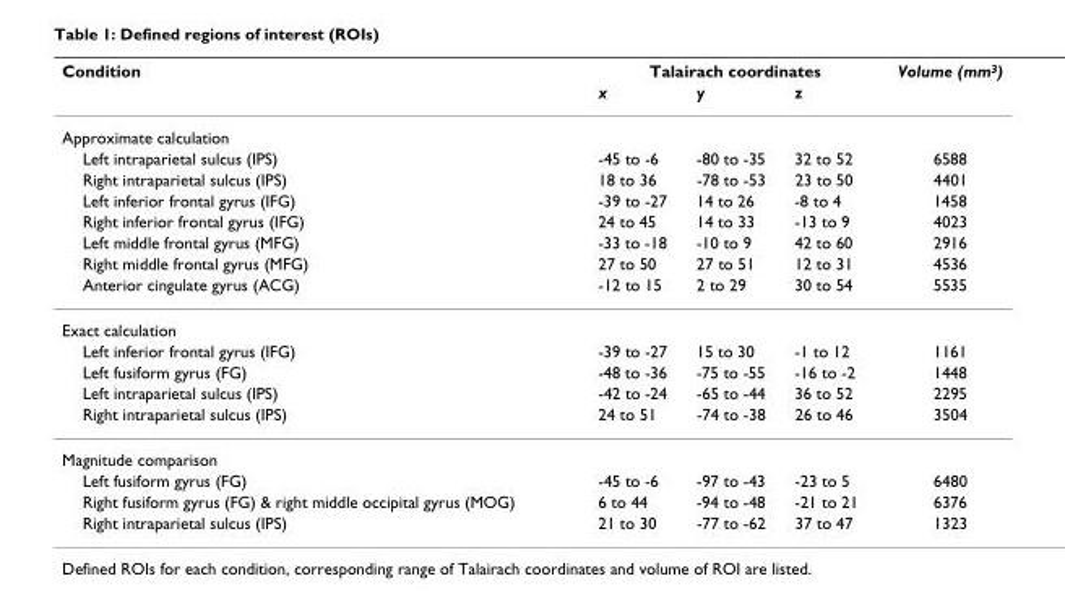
<table><tbody><tr><td rowspan="2">Condition</td><td colspan="3">Talairach coordinates</td><td>Volume (mm<sup>3</sup>)</td></tr><tr><td>x</td><td>y</td><td>z</td><td></td></tr><tr><td colspan="5">Approximate calculation</td></tr><tr><td>Left intraparietal sulcus (IPS)</td><td>-45 to -6</td><td>-80 to -35</td><td>32 to 52</td><td>6588</td></tr><tr><td>Right intraparietal sulcus (IPS)</td><td>18 to 36</td><td>-78 to -53</td><td>23 to 50</td><td>4401</td></tr><tr><td>Left inferior frontal gyrus (IFG)</td><td>-39 to -27</td><td>14 to 26</td><td>-8 to 4</td><td>1458</td></tr><tr><td>Right inferior frontal gyrus (IFG)</td><td>24 to 45</td><td>14 to 33</td><td>-13 to 9</td><td>4023</td></tr><tr><td>Left middle frontal gyrus (MFG)</td><td>-33 to -18</td><td>-10 to 9</td><td>42 to 60</td><td>2916</td></tr><tr><td>Right middle frontal gyrus (MFG)</td><td>27 to 50</td><td>27 to 51</td><td>12 to 31</td><td>4536</td></tr><tr><td>Anterior cingulate gyrus (ACG)</td><td>-12 to 15</td><td>2 to 29</td><td>30 to 54</td><td>5535</td></tr><tr><td colspan="5">Exact calculation</td></tr><tr><td>Left inferior frontal gyrus (IFG)</td><td>-39 to -27</td><td>15 to 30</td><td>-1 to 12</td><td>1161</td></tr><tr><td>Left fusiform gyrus (FG)</td><td>-48 to -36</td><td>-75 to -55</td><td>-16 to -2</td><td>1448</td></tr><tr><td>Left intraparietal sulcus (IPS)</td><td>-42 to -24</td><td>-65 to -44</td><td>36 to 52</td><td>2295</td></tr><tr><td>Right intraparietal sulcus (IPS)</td><td>24 to 51</td><td>-74 to -38</td><td>26 to 46</td><td>3504</td></tr><tr><td colspan="5">Magnitude comparison</td></tr><tr><td>Left fusiform gyrus (FG)</td><td>-45 to -6</td><td>-97 to -43</td><td>-23 to 5</td><td>6480</td></tr><tr><td>Right fusiform gyrus (FG) &amp; right middle occipital gyrus (MOG)</td><td>6 to 44</td><td>-94 to -48</td><td>-21 to 21</td><td>6376</td></tr><tr><td>Right intraparietal sulcus (IPS)</td><td>21 to 30</td><td>-77 to -62</td><td>37 to 47</td><td>1323</td></tr></tbody></table>